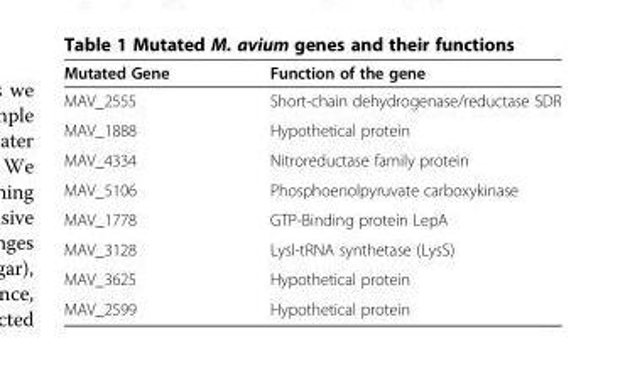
<table><thead><tr><td>Mutated Gene</td><td>Function of the gene</td></tr></thead><tbody><tr><td>MAV_2555</td><td>Short-chain dehydrogenase/reductase SDR</td></tr><tr><td>MAV_1888</td><td>Hypothetical protein</td></tr><tr><td>MAV_4334</td><td>Nitroreductase family protein</td></tr><tr><td>MAV_5106</td><td>Phosphoenolpyruvate carboxykinase</td></tr><tr><td>MAV_1778</td><td>GTP-Binding protein LepA</td></tr><tr><td>MAV_3128</td><td>Lysl-tRNA synthetase (LysS)</td></tr><tr><td>MAV_3625</td><td>Hypothetical protein</td></tr><tr><td>MAV_2599</td><td>Hypothetical protein</td></tr></tbody></table>